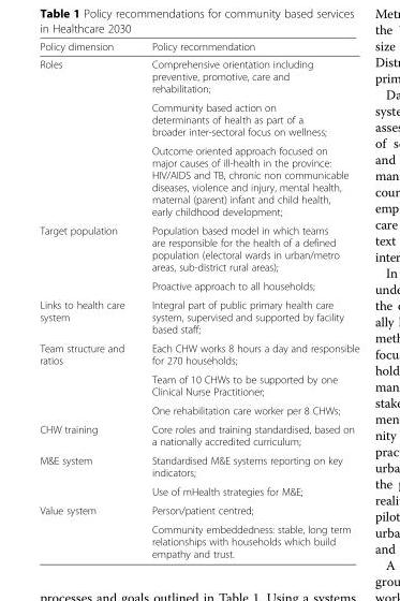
<table><thead><tr><td>Policy dimension</td><td>Policy recommendation</td></tr></thead><tbody><tr><td rowspan="3">Roles</td><td>Comprehensive orientation including preventive, promotive, care and rehabilitation;</td></tr><tr><td>Community based action on determinants of health as part of a broader inter-sectoral focus on wellness;</td></tr><tr><td>Outcome oriented approach focused on major causes of ill-health in the province: HIV/AIDS and TB, chronic non communicable diseases, violence and injury, mental health, maternal (parent) infant and child health, early childhood development;</td></tr><tr><td rowspan="2">Target population</td><td>Population based model in which teams are responsible for the health of a defined population (electoral wards in urban/metro areas, sub-district rural areas);</td></tr><tr><td>Proactive approach to all households;</td></tr><tr><td>Links to health care system</td><td>Integral part of public primary health care system, supervised and supported by facility based staff;</td></tr><tr><td rowspan="3">Team structure and ratios</td><td>Each CHW works 8 hours a day and responsible for 270 households;</td></tr><tr><td>Team of 10 CHWs to be supported by one Clinical Nurse Practitioner;</td></tr><tr><td>One rehabilitation care worker per 8 CHWs;</td></tr><tr><td>CHW training</td><td>Core roles and training standardised, based on a nationally accredited curriculum;</td></tr><tr><td rowspan="2">M&amp;E system</td><td>Standardised M&amp;E systems reporting on key indicators;</td></tr><tr><td>Use of mHealth strategies for M&amp;E;</td></tr><tr><td rowspan="2">Value system</td><td>Person/patient centred;</td></tr><tr><td>Community embeddedness: stable, long term relationships with households which build empathy and trust.</td></tr></tbody></table>